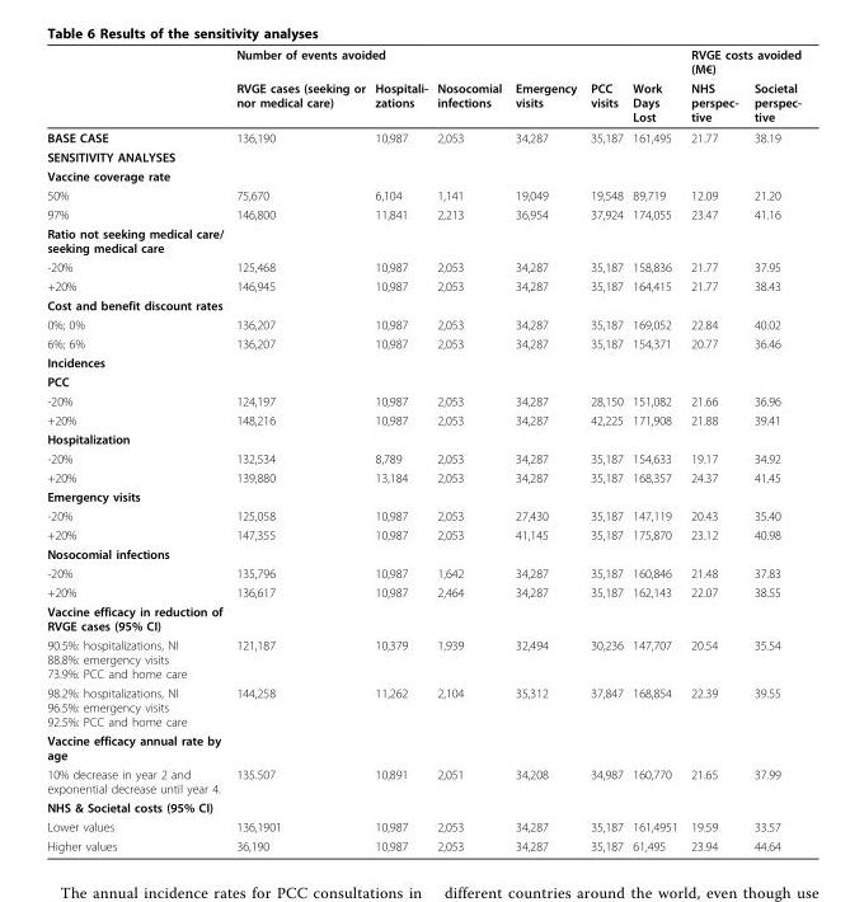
<table><thead><tr><td rowspan="2"></td><td colspan="6">Number of events avoided</td><td colspan="2">RVGE costs avoided (M€)</td></tr><tr><td>RVGE cases (seeking or nor medical care)</td><td>Hospitali- zations</td><td>Nosocomial infections</td><td>Emergency visits</td><td>PCC visits</td><td>Work Days Lost</td><td>NHS perspec- tive</td><td>Societal perspec- tive</td></tr></thead><tbody><tr><td>BASE CASE</td><td>136,190</td><td>10,987</td><td>2,053</td><td>34,287</td><td>35,187</td><td>161,495</td><td>21.77</td><td>38.19</td></tr><tr><td colspan="9">SENSITIVITY ANALYSES</td></tr><tr><td colspan="9">Vaccine coverage rate</td></tr><tr><td>50%</td><td>75,670</td><td>6,104</td><td>1,141</td><td>19,049</td><td>19,548</td><td>89,719</td><td>12.09</td><td>21.20</td></tr><tr><td>97%</td><td>146,800</td><td>11,841</td><td>2,213</td><td>36,954</td><td>37,924</td><td>174,055</td><td>23.47</td><td>41.16</td></tr><tr><td colspan="9">Ratio not seeking medical care/ seeking medical care</td></tr><tr><td>-20%</td><td>125,468</td><td>10,987</td><td>2,053</td><td>34,287</td><td>35,187</td><td>158,836</td><td>21.77</td><td>37.95</td></tr><tr><td>+20%</td><td>146,945</td><td>10,987</td><td>2,053</td><td>34,287</td><td>35,187</td><td>164,415</td><td>21.77</td><td>38.43</td></tr><tr><td colspan="9">Cost and benefit discount rates</td></tr><tr><td>0%; 0%</td><td>136,207</td><td>10,987</td><td>2,053</td><td>34,287</td><td>35,187</td><td>169,052</td><td>22.84</td><td>40.02</td></tr><tr><td>6%; 6%</td><td>136,207</td><td>10,987</td><td>2,053</td><td>34,287</td><td>35,187</td><td>154,371</td><td>20.77</td><td>36.46</td></tr><tr><td colspan="9">Incidences</td></tr><tr><td colspan="9">PCC</td></tr><tr><td>-20%</td><td>124,197</td><td>10,987</td><td>2,053</td><td>34,287</td><td>28,150</td><td>151,082</td><td>21.66</td><td>36.96</td></tr><tr><td>+20%</td><td>148,216</td><td>10,987</td><td>2,053</td><td>34,287</td><td>42,225</td><td>171,908</td><td>21.88</td><td>39.41</td></tr><tr><td colspan="9">Hospitalization</td></tr><tr><td>-20%</td><td>132,534</td><td>8,789</td><td>2,053</td><td>34,287</td><td>35,187</td><td>154,633</td><td>19.17</td><td>34.92</td></tr><tr><td>+20%</td><td>139,880</td><td>13,184</td><td>2,053</td><td>34,287</td><td>35,187</td><td>168,357</td><td>24.37</td><td>41.45</td></tr><tr><td colspan="9">Emergency visits</td></tr><tr><td>-20%</td><td>125,058</td><td>10,987</td><td>2,053</td><td>27,430</td><td>35,187</td><td>147,119</td><td>20.43</td><td>35.40</td></tr><tr><td>+20%</td><td>147,355</td><td>10,987</td><td>2,053</td><td>41,145</td><td>35,187</td><td>175,870</td><td>23.12</td><td>40.98</td></tr><tr><td colspan="9">Nosocomial infections</td></tr><tr><td>-20%</td><td>135,796</td><td>10,987</td><td>1,642</td><td>34,287</td><td>35,187</td><td>160,846</td><td>21.48</td><td>37.83</td></tr><tr><td>+20%</td><td>136,617</td><td>10,987</td><td>2,464</td><td>34,287</td><td>35,187</td><td>162,143</td><td>22.07</td><td>38.55</td></tr><tr><td colspan="9">Vaccine efficacy in reduction of RVGE cases (95% CI)</td></tr><tr><td>90.5%: hospitalizations, NI 88.8%: emergency visits 73.9%: PCC and home care</td><td>121,187</td><td>10,379</td><td>1,939</td><td>32,494</td><td>30,236</td><td>147,707</td><td>20.54</td><td>35.54</td></tr><tr><td>98.2%: hospitalizations, NI 96.5%: emergency visits 92.5%: PCC and home care</td><td>144,258</td><td>11,262</td><td>2,104</td><td>35,312</td><td>37,847</td><td>168,854</td><td>22.39</td><td>39.55</td></tr><tr><td colspan="9">Vaccine efficacy annual rate by age</td></tr><tr><td>10% decrease in year 2 and exponential decrease until year 4.</td><td>135.507</td><td>10,891</td><td>2,051</td><td>34,208</td><td>34,987</td><td>160,770</td><td>21.65</td><td>37.99</td></tr><tr><td colspan="9">NHS &amp; Societal costs (95% CI)</td></tr><tr><td>Lower values</td><td>136,1901</td><td>10,987</td><td>2,053</td><td>34,287</td><td>35,187</td><td>161,4951</td><td>19.59</td><td>33.57</td></tr><tr><td>Higher values</td><td>36,190</td><td>10,987</td><td>2,053</td><td>34,287</td><td>35,187</td><td>61,495</td><td>23.94</td><td>44.64</td></tr></tbody></table>